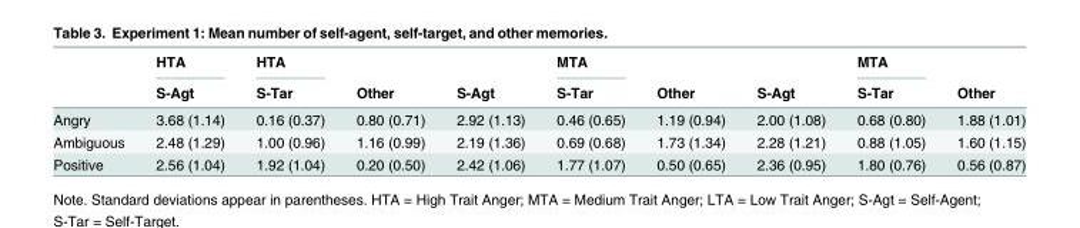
<table><thead><tr><td rowspan="2"></td><td rowspan="2">HTA S-Agt</td><td rowspan="2">HTA S-Tar</td><td rowspan="2">Other</td><td rowspan="2">S-Agt</td><td rowspan="2">MTA S-Tar</td><td rowspan="2">Other</td><td rowspan="2">S-Agt</td><td rowspan="2">MTA S-Tar</td><td rowspan="2">Other</td></tr><tr></tr></thead><tbody><tr><td>Angry</td><td>3.68 (1.14)</td><td>0.16 (0.37)</td><td>0.80 (0.71)</td><td>2.92 (1.13)</td><td>0.46 (0.65)</td><td>1.19 (0.94)</td><td>2.00 (1.08)</td><td>0.68 (0.80)</td><td>1.88 (1.01)</td></tr><tr><td>Ambiguous</td><td>2.48 (1.29)</td><td>1.00 (0.96)</td><td>1.16 (0.99)</td><td>2.19 (1.36)</td><td>0.69 (0.68)</td><td>1.73 (1.34)</td><td>2.28 (1.21)</td><td>0.88 (1.05)</td><td>1.60 (1.15)</td></tr><tr><td>Positive</td><td>2.56 (1.04)</td><td>1.92 (1.04)</td><td>0.20 (0.50)</td><td>2.42 (1.06)</td><td>1.77 (1.07)</td><td>0.50 (0.65)</td><td>2.36 (0.95)</td><td>1.80 (0.76)</td><td>0.56 (0.87)</td></tr></tbody></table>